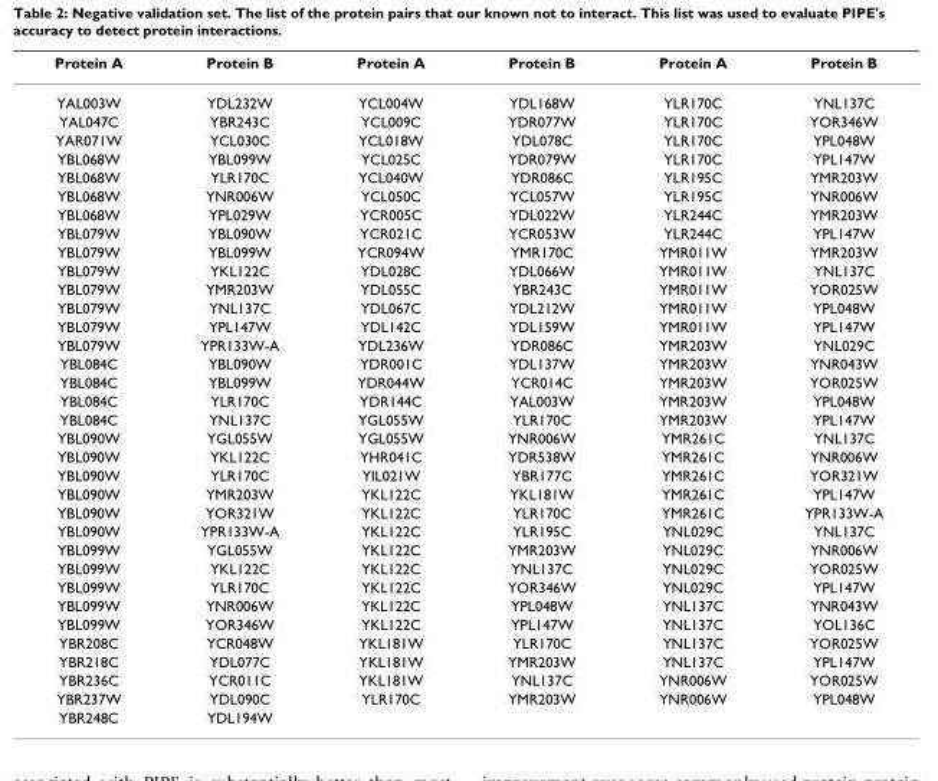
<table><thead><tr><td>Protein A</td><td>Protein B</td><td>Protein A</td><td>Protein B</td><td>Protein A</td><td>Protein B</td></tr></thead><tbody><tr><td>YAL003W</td><td>YDL232W</td><td>YCL004W</td><td>YDL168W</td><td>YLR170C</td><td>YNL137C</td></tr><tr><td>YAL047C</td><td>YBR243C</td><td>YCL009C</td><td>YDR077W</td><td>YLR170C</td><td>YOR346W</td></tr><tr><td>YAR071W</td><td>YCL030C</td><td>YCL018W</td><td>YDL078C</td><td>YLR170C</td><td>YPL048W</td></tr><tr><td>YBL068W</td><td>YBL099W</td><td>YCL025C</td><td>YDR079W</td><td>YLR170C</td><td>YPL147W</td></tr><tr><td>YBL068W</td><td>YLR170C</td><td>YCL040W</td><td>YDR086C</td><td>YLR195C</td><td>YMR203W</td></tr><tr><td>YBL068W</td><td>YNR006W</td><td>YCL050C</td><td>YCL057W</td><td>YLR195C</td><td>YNR006W</td></tr><tr><td>YBL068W</td><td>YPL029W</td><td>YCR005C</td><td>YDL022W</td><td>YLR244C</td><td>YMR203W</td></tr><tr><td>YBL079W</td><td>YBL090W</td><td>YCR021C</td><td>YCR053W</td><td>YLR244C</td><td>YPL147W</td></tr><tr><td>YBL079W</td><td>YBL099W</td><td>YCR094W</td><td>YMR170C</td><td>YMR011W</td><td>YMR203W</td></tr><tr><td>YBL079W</td><td>YKL122C</td><td>YDL028C</td><td>YDL066W</td><td>YMR011W</td><td>YNL137C</td></tr><tr><td>YBL079W</td><td>YMR203W</td><td>YDL055C</td><td>YBR243C</td><td>YMR011W</td><td>YOR025W</td></tr><tr><td>YBL079W</td><td>YNL137C</td><td>YDL067C</td><td>YDL212W</td><td>YMR011W</td><td>YPL048W</td></tr><tr><td>YBL079W</td><td>YPL147W</td><td>YDL142C</td><td>YDL159W</td><td>YMR011W</td><td>YPL147W</td></tr><tr><td>YBL079W</td><td>YPR133W-A</td><td>YDL236W</td><td>YDR086C</td><td>YMR203W</td><td>YNL029C</td></tr><tr><td>YBL084C</td><td>YBL090W</td><td>YDR001C</td><td>YDL137W</td><td>YMR203W</td><td>YNR043W</td></tr><tr><td>YBL084C</td><td>YBL099W</td><td>YDR044W</td><td>YCR014C</td><td>YMR203W</td><td>YOR025W</td></tr><tr><td>YBL084C</td><td>YLR170C</td><td>YDR144C</td><td>YAL003W</td><td>YMR203W</td><td>YPL048W</td></tr><tr><td>YBL084C</td><td>YNL137C</td><td>YGL055W</td><td>YLR170C</td><td>YMR203W</td><td>YPL147W</td></tr><tr><td>YBL090W</td><td>YGL055W</td><td>YGL055W</td><td>YNR006W</td><td>YMR261C</td><td>YNL137C</td></tr><tr><td>YBL090W</td><td>YKL122C</td><td>YHR041C</td><td>YDR538W</td><td>YMR261C</td><td>YNR006W</td></tr><tr><td>YBL090W</td><td>YLR170C</td><td>YIL021W</td><td>YBR177C</td><td>YMR261C</td><td>YOR321W</td></tr><tr><td>YBL090W</td><td>YMR203W</td><td>YKL122C</td><td>YKL181W</td><td>YMR261C</td><td>YPL147W</td></tr><tr><td>YBL090W</td><td>YOR321W</td><td>YKL122C</td><td>YLR170C</td><td>YMR261C</td><td>YPR133W-A</td></tr><tr><td>YBL090W</td><td>YPR133W-A</td><td>YKL122C</td><td>YLR195C</td><td>YNL029C</td><td>YNL137C</td></tr><tr><td>YBL099W</td><td>YGL055W</td><td>YKL122C</td><td>YMR203W</td><td>YNL029C</td><td>YNR006W</td></tr><tr><td>YBL099W</td><td>YKL122C</td><td>YKL122C</td><td>YNL137C</td><td>YNL029C</td><td>YOR025W</td></tr><tr><td>YBL099W</td><td>YLR170C</td><td>YKL122C</td><td>YOR346W</td><td>YNL029C</td><td>YPL147W</td></tr><tr><td>YBL099W</td><td>YNR006W</td><td>YKL122C</td><td>YPL048W</td><td>YNL137C</td><td>YNR043W</td></tr><tr><td>YBL099W</td><td>YOR346W</td><td>YKL122C</td><td>YPL147W</td><td>YNL137C</td><td>YOL136C</td></tr><tr><td>YBR208C</td><td>YCR048W</td><td>YKL181W</td><td>YLR170C</td><td>YNL137C</td><td>YOR025W</td></tr><tr><td>YBR218C</td><td>YDL077C</td><td>YKL181W</td><td>YMR203W</td><td>YNL137C</td><td>YPL147W</td></tr><tr><td>YBR236C</td><td>YCR011C</td><td>YKL181W</td><td>YNL137C</td><td>YNR006W</td><td>YOR025W</td></tr><tr><td>YBR237W</td><td>YDL090C</td><td>YLR170C</td><td>YMR203W</td><td>YNR006W</td><td>YPL048W</td></tr><tr><td>YBR248C</td><td>YDL194W</td><td></td><td></td><td></td><td></td></tr></tbody></table>